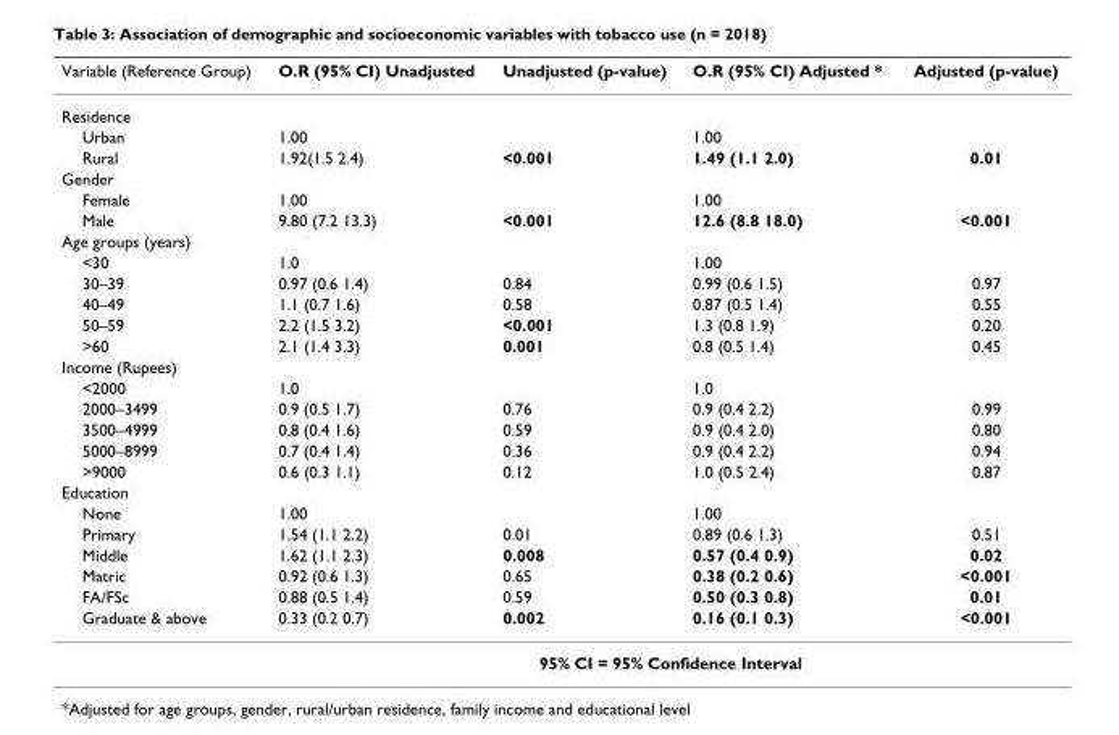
<table><thead><tr><td>Variable (Reference Group)</td><td>O.R (95% CI) Unadjusted</td><td>Unadjusted (p-value)</td><td>O.R (95% CI) Adjusted *</td><td>Adjusted (p-value)</td></tr></thead><tbody><tr><td colspan="5">Residence</td></tr><tr><td>Urban</td><td>1.00</td><td></td><td>1.00</td><td></td></tr><tr><td>Rural</td><td>1.92(1.5 2.4)</td><td>&lt;0.001</td><td>1.49 (1.1 2.0)</td><td>0.01</td></tr><tr><td colspan="5">Gender</td></tr><tr><td>Female</td><td>1.00</td><td></td><td>1.00</td><td></td></tr><tr><td>Male</td><td>9.80 (7.2 13.3)</td><td>&lt;0.001</td><td>12.6 (8.8 18.0)</td><td>&lt;0.001</td></tr><tr><td colspan="5">Age groups (years)</td></tr><tr><td>&lt;30</td><td>1.0</td><td></td><td>1.00</td><td></td></tr><tr><td>30–39</td><td>0.97 (0.6 1.4)</td><td>0.84</td><td>0.99 (0.6 1.5)</td><td>0.97</td></tr><tr><td>40–49</td><td>1.1 (0.7 1.6)</td><td>0.58</td><td>0.87 (0.5 1.4)</td><td>0.55</td></tr><tr><td>50–59</td><td>2.2 (1.5 3.2)</td><td>&lt;0.001</td><td>1.3 (0.8 1.9)</td><td>0.20</td></tr><tr><td>&gt;60</td><td>2.1 (1.4 3.3)</td><td>0.001</td><td>0.8 (0.5 1.4)</td><td>0.45</td></tr><tr><td colspan="5">Income (Rupees)</td></tr><tr><td>&lt;2000</td><td>1.0</td><td></td><td>1.0</td><td></td></tr><tr><td>2000–3499</td><td>0.9 (0.5 1.7)</td><td>0.76</td><td>0.9 (0.4 2.2)</td><td>0.99</td></tr><tr><td>3500–4999</td><td>0.8 (0.4 1.6)</td><td>0.59</td><td>0.9 (0.4 2.0)</td><td>0.80</td></tr><tr><td>5000–8999</td><td>0.7 (0.4 1.4)</td><td>0.36</td><td>0.9 (0.4 2.2)</td><td>0.94</td></tr><tr><td>&gt;9000</td><td>0.6 (0.3 1.1)</td><td>0.12</td><td>1.0 (0.5 2.4)</td><td>0.87</td></tr><tr><td colspan="5">Education</td></tr><tr><td>None</td><td>1.00</td><td></td><td>1.00</td><td></td></tr><tr><td>Primary</td><td>1.54 (1.1 2.2)</td><td>0.01</td><td>0.89 (0.6 1.3)</td><td>0.51</td></tr><tr><td>Middle</td><td>1.62 (1.1 2.3)</td><td>0.008</td><td>0.57 (0.4 0.9)</td><td>0.02</td></tr><tr><td>Matric</td><td>0.92 (0.6 1.3)</td><td>0.65</td><td>0.38 (0.2 0.6)</td><td>&lt;0.001</td></tr><tr><td>FA/FSc</td><td>0.88 (0.5 1.4)</td><td>0.59</td><td>0.50 (0.3 0.8)</td><td>0.01</td></tr><tr><td rowspan="2">Graduate &amp; above</td><td>0.33 (0.2 0.7)</td><td>0.002</td><td>0.16 (0.1 0.3)</td><td>&lt;0.001</td></tr><tr><td colspan="4">95% CI = 95% Confidence Interval</td></tr></tbody></table>